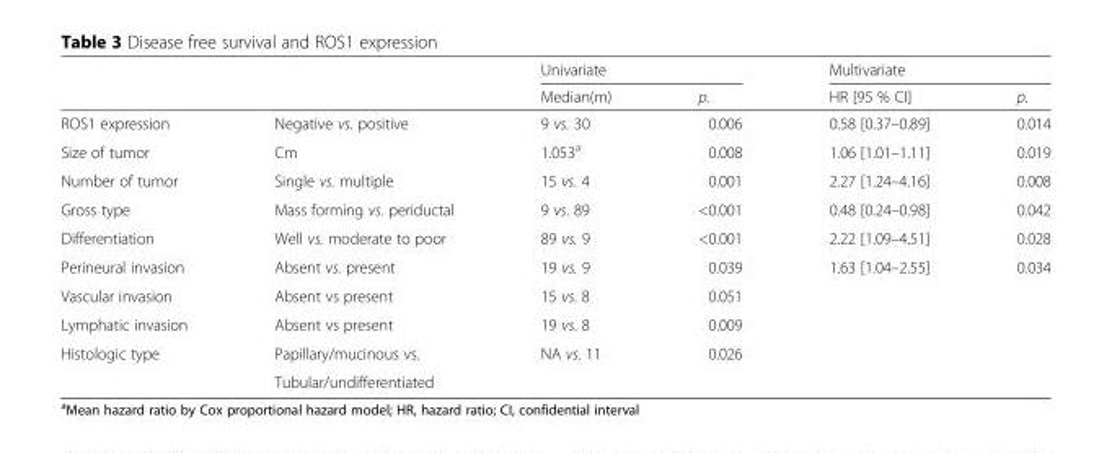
<table><thead><tr><td rowspan="2"></td><td rowspan="2"></td><td colspan="2">Univariate</td><td colspan="2">Multivariate</td></tr><tr><td>Median(m)</td><td>p.</td><td>HR [95 % CI]</td><td>p.</td></tr></thead><tbody><tr><td>ROS1 expression</td><td>Negative vs. positive</td><td>9 vs. 30</td><td>0.006</td><td>0.58 [0.37–0.89]</td><td>0.014</td></tr><tr><td>Size of tumor</td><td>Cm</td><td>1.053<sup>a</sup></td><td>0.008</td><td>1.06 [1.01–1.11]</td><td>0.019</td></tr><tr><td>Number of tumor</td><td>Single vs. multiple</td><td>15 vs. 4</td><td>0.001</td><td>2.27 [1.24–4.16]</td><td>0.008</td></tr><tr><td>Gross type</td><td>Mass forming vs. periductal</td><td>9 vs. 89</td><td>&lt;0.001</td><td>0.48 [0.24–0.98]</td><td>0.042</td></tr><tr><td>Differentiation</td><td>Well vs. moderate to poor</td><td>89 vs. 9</td><td>&lt;0.001</td><td>2.22 [1.09–4.51]</td><td>0.028</td></tr><tr><td>Perineural invasion</td><td>Absent vs. present</td><td>19 vs. 9</td><td>0.039</td><td>1.63 [1.04–2.55]</td><td>0.034</td></tr><tr><td>Vascular invasion</td><td>Absent vs present</td><td>15 vs. 8</td><td>0.051</td><td></td><td></td></tr><tr><td>Lymphatic invasion</td><td>Absent vs present</td><td>19 vs. 8</td><td>0.009</td><td></td><td></td></tr><tr><td rowspan="2">Histologic type</td><td>Papillary/mucinous vs.</td><td>NA vs. 11</td><td>0.026</td><td></td><td></td></tr><tr><td>Tubular/undifferentiated</td><td></td><td></td><td></td><td></td></tr></tbody></table>